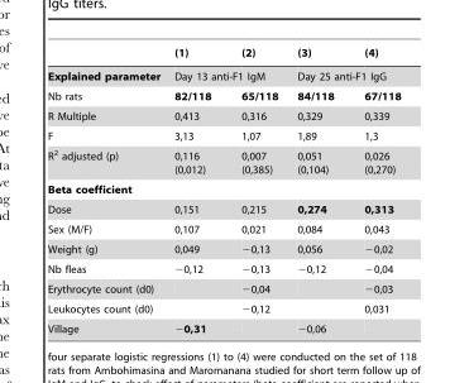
<table><thead><tr><td></td><td>(1)</td><td>(2)</td><td>(3)</td><td>(4)</td></tr></thead><tbody><tr><td>Explained parameter</td><td colspan="2">Day 13 anti-F1 IgM</td><td colspan="2">Day 25 anti-F1 IgG</td></tr><tr><td>Nb rats</td><td>82/118</td><td>65/118</td><td>84/118</td><td>67/118</td></tr><tr><td>R Multiple</td><td>0,413</td><td>0,316</td><td>0,329</td><td>0,339</td></tr><tr><td>F</td><td>3,13</td><td>1,07</td><td>1,89</td><td>1,3</td></tr><tr><td>R<sup>2</sup> adjusted (p)</td><td>0,116 (0,012)</td><td>0,007 (0,385)</td><td>0,051 (0,104)</td><td>0,026 (0,270)</td></tr><tr><td colspan="5">Beta coefficient</td></tr><tr><td>Dose</td><td>0,151</td><td>0,215</td><td>0,274</td><td>0,313</td></tr><tr><td>Sex (M/F)</td><td>0,107</td><td>0,021</td><td>0,084</td><td>0,043</td></tr><tr><td>Weight (g)</td><td>0,049</td><td>−0,13</td><td>0,056</td><td>−0,02</td></tr><tr><td>Nb fleas</td><td>−0,12</td><td>−0,13</td><td>−0,12</td><td>−0,04</td></tr><tr><td>Erythrocyte count (d0)</td><td></td><td>−0,04</td><td></td><td>−0,03</td></tr><tr><td>Leukocytes count (d0)</td><td></td><td>−0,12</td><td></td><td>0,031</td></tr><tr><td>Village</td><td>−0,31</td><td></td><td>−0,06</td><td></td></tr></tbody></table>